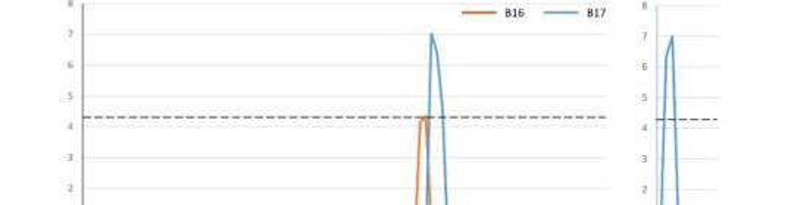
<table><thead><tr><td rowspan="2">QTL</td><td rowspan="2">Interval (cM)</td><td rowspan="2">Flanking Markers</td><td colspan="2">B16 <sup>a</sup></td><td colspan="2">B17 <sup>a</sup></td><td rowspan="2">Source <sup>b</sup></td></tr><tr><td>LOD</td><td>R<sup>2</sup></td><td>LOD</td><td>R<sup>2</sup></td></tr></thead><tbody><tr><td>QTs.zhl.-7A-1</td><td>120.0-122.0</td><td>HWGBS5451-HWGBS5420</td><td>4.4</td><td>0.08</td><td>-</td><td>-</td><td>W</td></tr><tr><td>QTs.zhl.-7A-2</td><td>124.0-130.0</td><td>HWGBS5420-HWGBS5422</td><td>-</td><td>-</td><td>7.0</td><td>0.11</td><td>W</td></tr><tr><td>QTs.zhl.-7D</td><td>176.0-180.0</td><td>HWGBS6047-HWGBS6066</td><td>-</td><td>-</td><td>7.0</td><td>0.09</td><td>W</td></tr></tbody></table>